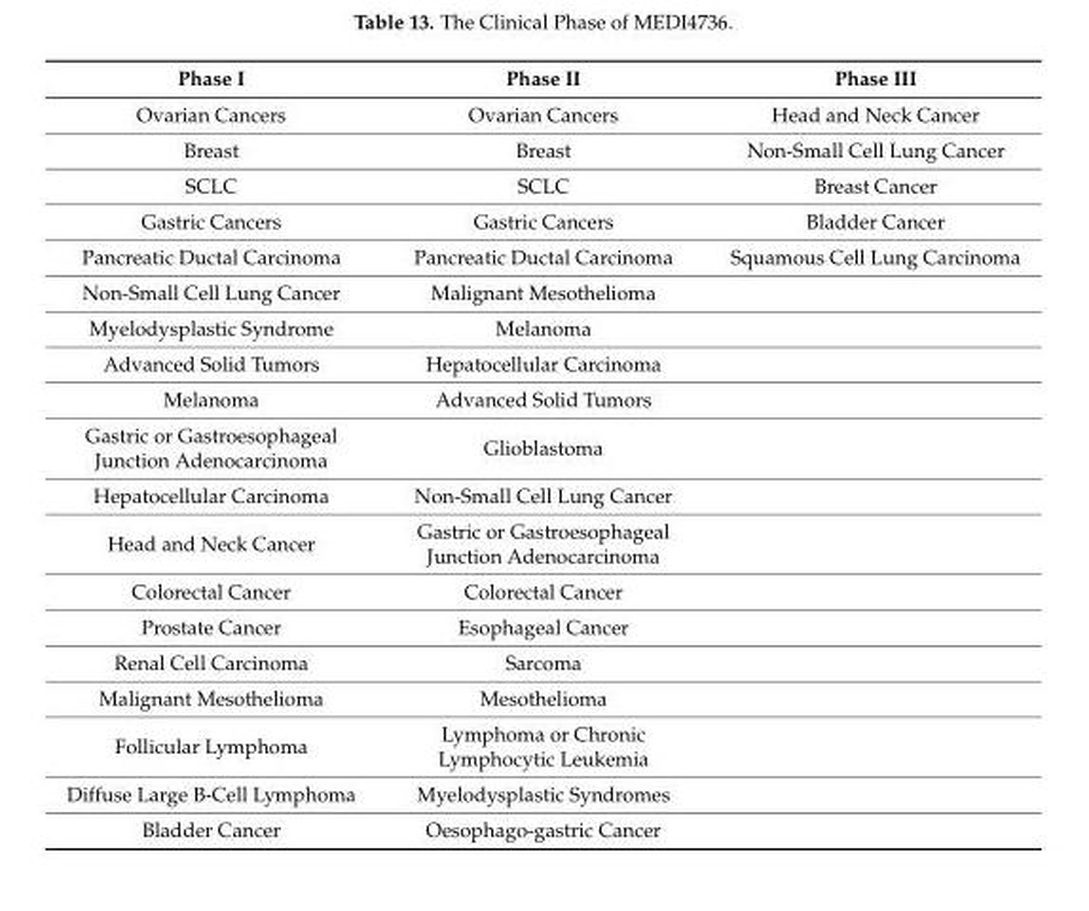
<table><thead><tr><td>Phase I</td><td>Phase II</td><td>Phase III</td></tr></thead><tbody><tr><td>Ovarian Cancers</td><td>Ovarian Cancers</td><td>Head and Neck Cancer</td></tr><tr><td>Breast</td><td>Breast</td><td>Non-Small Cell Lung Cancer</td></tr><tr><td>SCLC</td><td>SCLC</td><td>Breast Cancer</td></tr><tr><td>Gastric Cancers</td><td>Gastric Cancers</td><td>Bladder Cancer</td></tr><tr><td>Pancreatic Ductal Carcinoma</td><td>Pancreatic Ductal Carcinoma</td><td>Squamous Cell Lung Carcinoma</td></tr><tr><td>Non-Small Cell Lung Cancer</td><td>Malignant Mesothelioma</td><td></td></tr><tr><td>Myelodysplastic Syndrome</td><td>Melanoma</td><td></td></tr><tr><td>Advanced Solid Tumors</td><td>Hepatocellular Carcinoma</td><td></td></tr><tr><td>Melanoma</td><td>Advanced Solid Tumors</td><td></td></tr><tr><td>Gastric or Gastroesophageal Junction Adenocarcinoma</td><td>Glioblastoma</td><td></td></tr><tr><td>Hepatocellular Carcinoma</td><td>Non-Small Cell Lung Cancer</td><td></td></tr><tr><td>Head and Neck Cancer</td><td>Gastric or Gastroesophageal Junction Adenocarcinoma</td><td></td></tr><tr><td>Colorectal Cancer</td><td>Colorectal Cancer</td><td></td></tr><tr><td>Prostate Cancer</td><td>Esophageal Cancer</td><td></td></tr><tr><td>Renal Cell Carcinoma</td><td>Sarcoma</td><td></td></tr><tr><td>Malignant Mesothelioma</td><td>Mesothelioma</td><td></td></tr><tr><td>Follicular Lymphoma</td><td>Lymphoma or Chronic Lymphocytic Leukemia</td><td></td></tr><tr><td>Diffuse Large B-Cell Lymphoma</td><td>Myelodysplastic Syndromes</td><td></td></tr><tr><td>Bladder Cancer</td><td>Oesophago-gastric Cancer</td><td></td></tr></tbody></table>